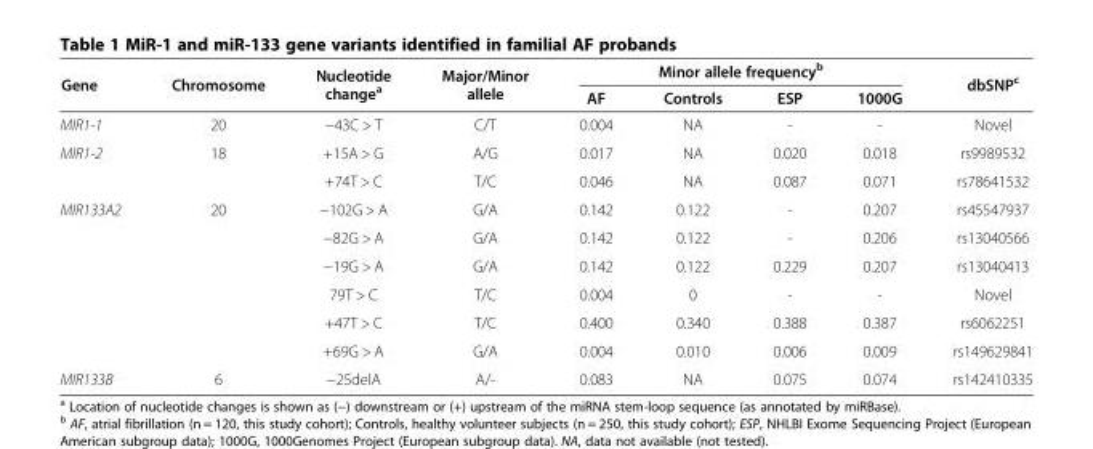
<table><thead><tr><td rowspan="2">Gene</td><td rowspan="2">Chromosome</td><td rowspan="2">Nucleotide change<sup>a</sup></td><td rowspan="2">Major/Minor allele</td><td colspan="4">Minor allele frequency<sup>b</sup></td><td rowspan="2">dbSNP<sup>c</sup></td></tr><tr><td>AF</td><td>Controls</td><td>ESP</td><td>1000G</td></tr></thead><tbody><tr><td>MIR1-1</td><td>20</td><td>−43C &gt; T</td><td>C/T</td><td>0.004</td><td>NA</td><td>-</td><td>-</td><td>Novel</td></tr><tr><td rowspan="2">MIR1-2</td><td>18</td><td>+15A &gt; G</td><td>A/G</td><td>0.017</td><td>NA</td><td>0.020</td><td>0.018</td><td>rs9989532</td></tr><tr><td></td><td>+74T &gt; C</td><td>T/C</td><td>0.046</td><td>NA</td><td>0.087</td><td>0.071</td><td>rs78641532</td></tr><tr><td rowspan="6">MIR133A2</td><td>20</td><td>−102G &gt; A</td><td>G/A</td><td>0.142</td><td>0.122</td><td>-</td><td>0.207</td><td>rs45547937</td></tr><tr><td></td><td>−82G &gt; A</td><td>G/A</td><td>0.142</td><td>0.122</td><td>-</td><td>0.206</td><td>rs13040566</td></tr><tr><td></td><td>−19G &gt; A</td><td>G/A</td><td>0.142</td><td>0.122</td><td>0.229</td><td>0.207</td><td>rs13040413</td></tr><tr><td></td><td>79T &gt; C</td><td>T/C</td><td>0.004</td><td>0</td><td>-</td><td>-</td><td>Novel</td></tr><tr><td></td><td>+47T &gt; C</td><td>T/C</td><td>0.400</td><td>0.340</td><td>0.388</td><td>0.387</td><td>rs6062251</td></tr><tr><td></td><td>+69G &gt; A</td><td>G/A</td><td>0.004</td><td>0.010</td><td>0.006</td><td>0.009</td><td>rs149629841</td></tr><tr><td>MIR133B</td><td>6</td><td>−25delA</td><td>A/-</td><td>0.083</td><td>NA</td><td>0.075</td><td>0.074</td><td>rs142410335</td></tr></tbody></table>